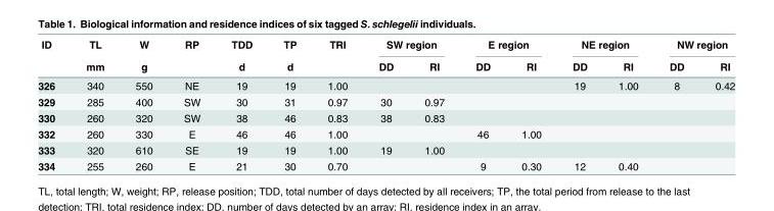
<table><thead><tr><td rowspan="2">ID</td><td rowspan="2">TL mm</td><td rowspan="2">W g</td><td rowspan="2">RP</td><td rowspan="2">TDD d</td><td rowspan="2">TP d</td><td rowspan="2">TRI</td><td colspan="2">SW region</td><td colspan="2">E region</td><td colspan="2">NE region</td><td colspan="2">NW region</td></tr><tr><td>DD</td><td>RI</td><td>DD</td><td>RI</td><td>DD</td><td>RI</td><td>DD</td><td>RI</td></tr></thead><tbody><tr><td>326</td><td>340</td><td>550</td><td>NE</td><td>19</td><td>19</td><td>1.00</td><td></td><td></td><td></td><td></td><td>19</td><td>1.00</td><td>8</td><td>0.42</td></tr><tr><td>329</td><td>285</td><td>400</td><td>SW</td><td>30</td><td>31</td><td>0.97</td><td>30</td><td>0.97</td><td></td><td></td><td></td><td></td><td></td><td></td></tr><tr><td>330</td><td>260</td><td>320</td><td>SW</td><td>38</td><td>46</td><td>0.83</td><td>38</td><td>0.83</td><td></td><td></td><td></td><td></td><td></td><td></td></tr><tr><td>332</td><td>260</td><td>330</td><td>E</td><td>46</td><td>46</td><td>1.00</td><td></td><td></td><td>46</td><td>1.00</td><td></td><td></td><td></td><td></td></tr><tr><td>333</td><td>320</td><td>610</td><td>SE</td><td>19</td><td>19</td><td>1.00</td><td>19</td><td>1.00</td><td></td><td></td><td></td><td></td><td></td><td></td></tr><tr><td>334</td><td>255</td><td>260</td><td>E</td><td>21</td><td>30</td><td>0.70</td><td></td><td></td><td>9</td><td>0.30</td><td>12</td><td>0.40</td><td></td><td></td></tr></tbody></table>